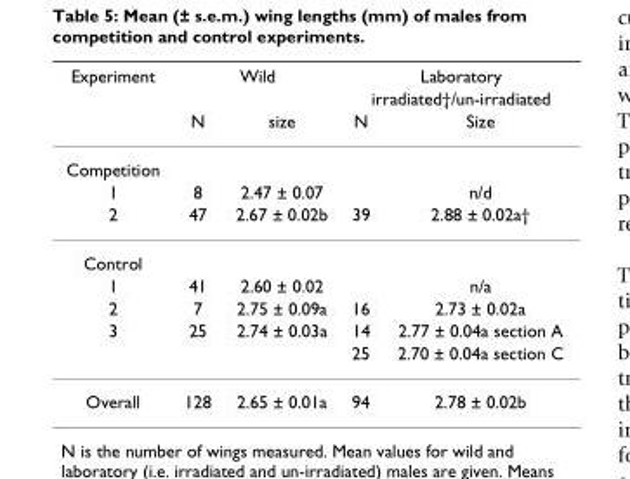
<table><thead><tr><td rowspan="3">Experiment</td><td colspan="2">Wild</td><td rowspan="2" colspan="2">Laboratory irradiated†/un-irradiated</td></tr><tr><td rowspan="2">N</td><td rowspan="2">size</td></tr><tr><td>N</td><td>Size</td></tr></thead><tbody><tr><td colspan="5">Competition</td></tr><tr><td>1</td><td>8</td><td>2.47 ± 0.07</td><td></td><td>n/d</td></tr><tr><td>2</td><td>47</td><td>2.67 ± 0.02b</td><td>39</td><td>2.88 ± 0.02a†</td></tr><tr><td colspan="5">Control</td></tr><tr><td>1</td><td>41</td><td>2.60 ± 0.02</td><td></td><td>n/a</td></tr><tr><td>2</td><td>7</td><td>2.75 ± 0.09a</td><td>16</td><td>2.73 ± 0.02a</td></tr><tr><td rowspan="2">3</td><td>25</td><td>2.74 ± 0.03a</td><td>14</td><td>2.77 ± 0.04a section A</td></tr><tr><td></td><td></td><td>25</td><td>2.70 ± 0.04a section C</td></tr><tr><td>Overall</td><td>128</td><td>2.65 ± 0.01a</td><td>94</td><td>2.78 ± 0.02b</td></tr></tbody></table>